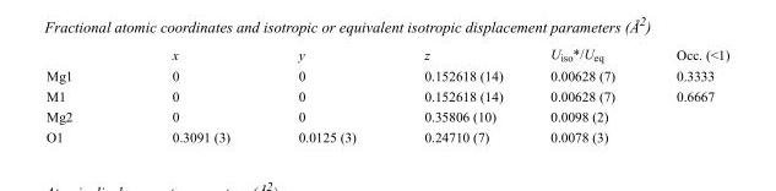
<table><thead><tr><td></td><td>x</td><td>y</td><td>z</td><td>U<sub>iso</sub>*/U<sub>eq</sub></td><td>Occ. (&lt;1)</td></tr></thead><tbody><tr><td>Mg1</td><td>0</td><td>0</td><td>0.152618 (14)</td><td>0.00628 (7)</td><td>0.3333</td></tr><tr><td>M1</td><td>0</td><td>0</td><td>0.152618 (14)</td><td>0.00628 (7)</td><td>0.6667</td></tr><tr><td>Mg2</td><td>0</td><td>0</td><td>0.35806 (10)</td><td>0.0098 (2)</td><td></td></tr><tr><td>O1</td><td>0.3091 (3)</td><td>0.0125 (3)</td><td>0.24710 (7)</td><td>0.0078 (3)</td><td></td></tr></tbody></table>